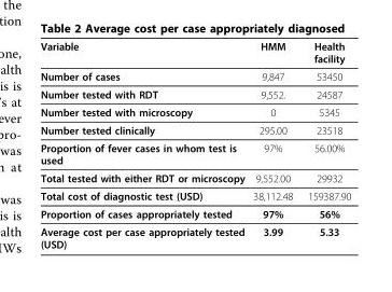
<table><thead><tr><td>Variable</td><td>HMM</td><td>Health facility</td></tr></thead><tbody><tr><td>Number of cases</td><td>9,847</td><td>53450</td></tr><tr><td>Number tested with RDT</td><td>9,552.</td><td>24587</td></tr><tr><td>Number tested with microscopy</td><td>0</td><td>5345</td></tr><tr><td>Number tested clinically</td><td>295.00</td><td>23518</td></tr><tr><td>Proportion of fever cases in whom test is used</td><td>97%</td><td>56.00%</td></tr><tr><td>Total tested with either RDT or microscopy</td><td>9,552.00</td><td>29932</td></tr><tr><td>Total cost of diagnostic test (USD)</td><td>38,112.48</td><td>159387.90</td></tr><tr><td>Proportion of cases appropriately tested</td><td>97%</td><td>56%</td></tr><tr><td>Average cost per case appropriately tested (USD)</td><td>3.99</td><td>5.33</td></tr></tbody></table>